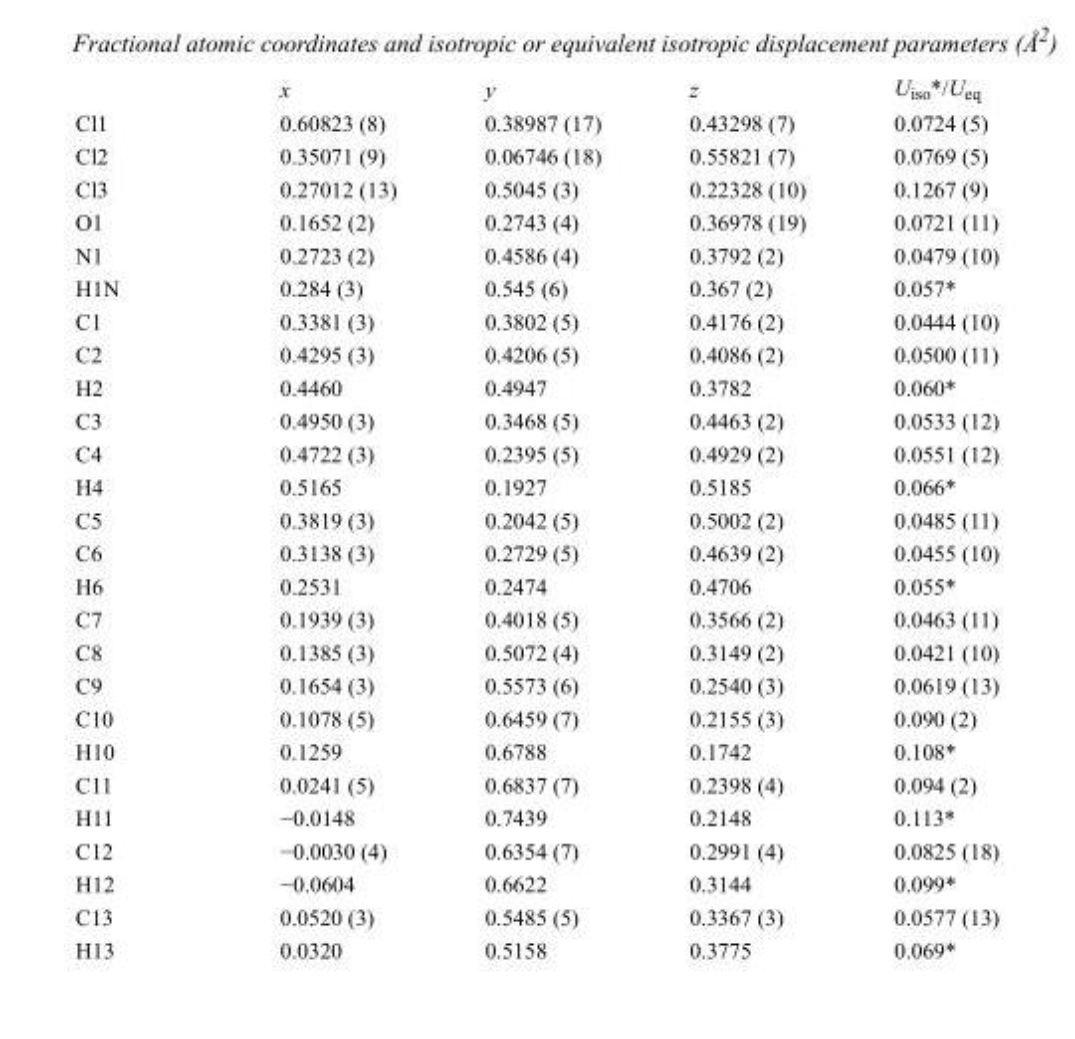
<table><thead><tr><td></td><td>x</td><td>y</td><td>z</td><td>U<sub>iso</sub>*/U<sub>eq</sub></td></tr></thead><tbody><tr><td>Cl1</td><td>0.60823 (8)</td><td>0.38987 (17)</td><td>0.43298 (7)</td><td>0.0724 (5)</td></tr><tr><td>Cl2</td><td>0.35071 (9)</td><td>0.06746 (18)</td><td>0.55821 (7)</td><td>0.0769 (5)</td></tr><tr><td>Cl3</td><td>0.27012 (13)</td><td>0.5045 (3)</td><td>0.22328 (10)</td><td>0.1267 (9)</td></tr><tr><td>O1</td><td>0.1652 (2)</td><td>0.2743 (4)</td><td>0.36978 (19)</td><td>0.0721 (11)</td></tr><tr><td>N1</td><td>0.2723 (2)</td><td>0.4586 (4)</td><td>0.3792 (2)</td><td>0.0479 (10)</td></tr><tr><td>H1N</td><td>0.284 (3)</td><td>0.545 (6)</td><td>0.367 (2)</td><td>0.057*</td></tr><tr><td>C1</td><td>0.3381 (3)</td><td>0.3802 (5)</td><td>0.4176 (2)</td><td>0.0444 (10)</td></tr><tr><td>C2</td><td>0.4295 (3)</td><td>0.4206 (5)</td><td>0.4086 (2)</td><td>0.0500 (11)</td></tr><tr><td>H2</td><td>0.4460</td><td>0.4947</td><td>0.3782</td><td>0.060*</td></tr><tr><td>C3</td><td>0.4950 (3)</td><td>0.3468 (5)</td><td>0.4463 (2)</td><td>0.0533 (12)</td></tr><tr><td>C4</td><td>0.4722 (3)</td><td>0.2395 (5)</td><td>0.4929 (2)</td><td>0.0551 (12)</td></tr><tr><td>H4</td><td>0.5165</td><td>0.1927</td><td>0.5185</td><td>0.066*</td></tr><tr><td>C5</td><td>0.3819 (3)</td><td>0.2042 (5)</td><td>0.5002 (2)</td><td>0.0485 (11)</td></tr><tr><td>C6</td><td>0.3138 (3)</td><td>0.2729 (5)</td><td>0.4639 (2)</td><td>0.0455 (10)</td></tr><tr><td>H6</td><td>0.2531</td><td>0.2474</td><td>0.4706</td><td>0.055*</td></tr><tr><td>C7</td><td>0.1939 (3)</td><td>0.4018 (5)</td><td>0.3566 (2)</td><td>0.0463 (11)</td></tr><tr><td>C8</td><td>0.1385 (3)</td><td>0.5072 (4)</td><td>0.3149 (2)</td><td>0.0421 (10)</td></tr><tr><td>C9</td><td>0.1654 (3)</td><td>0.5573 (6)</td><td>0.2540 (3)</td><td>0.0619 (13)</td></tr><tr><td>C10</td><td>0.1078 (5)</td><td>0.6459 (7)</td><td>0.2155 (3)</td><td>0.090 (2)</td></tr><tr><td>H10</td><td>0.1259</td><td>0.6788</td><td>0.1742</td><td>0.108*</td></tr><tr><td>C11</td><td>0.0241 (5)</td><td>0.6837 (7)</td><td>0.2398 (4)</td><td>0.094 (2)</td></tr><tr><td>H11</td><td>−0.0148</td><td>0.7439</td><td>0.2148</td><td>0.113*</td></tr><tr><td>C12</td><td>−0.0030 (4)</td><td>0.6354 (7)</td><td>0.2991 (4)</td><td>0.0825 (18)</td></tr><tr><td>H12</td><td>−0.0604</td><td>0.6622</td><td>0.3144</td><td>0.099*</td></tr><tr><td>C13</td><td>0.0520 (3)</td><td>0.5485 (5)</td><td>0.3367 (3)</td><td>0.0577 (13)</td></tr><tr><td>H13</td><td>0.0320</td><td>0.5158</td><td>0.3775</td><td>0.069*</td></tr></tbody></table>